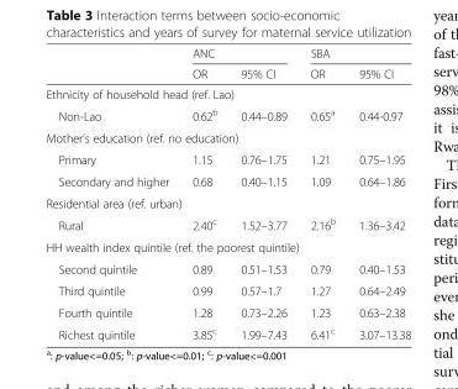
<table><thead><tr><td rowspan="2"></td><td colspan="2">ANC</td><td colspan="2">SBA</td></tr><tr><td>OR</td><td>95% CI</td><td>OR</td><td>95% CI</td></tr></thead><tbody><tr><td colspan="5">Ethnicity of household head (ref. Lao)</td></tr><tr><td>Non-Lao</td><td>0.62<sup>b</sup></td><td>0.44–0.89</td><td>0.65<sup>a</sup></td><td>0.44-0.97</td></tr><tr><td colspan="5">Mother’s education (ref. no education)</td></tr><tr><td>Primary</td><td>1.15</td><td>0.76–1.75</td><td>1.21</td><td>0.75–1.95</td></tr><tr><td>Secondary and higher</td><td>0.68</td><td>0.40–1.15</td><td>1.09</td><td>0.64–1.86</td></tr><tr><td colspan="5">Residential area (ref. urban)</td></tr><tr><td>Rural</td><td>2.40<sup>c</sup></td><td>1.52–3.77</td><td>2.16<sup>b</sup></td><td>1.36–3.42</td></tr><tr><td colspan="5">HH wealth index quintile (ref. the poorest quintile)</td></tr><tr><td>Second quintile</td><td>0.89</td><td>0.51–1.53</td><td>0.79</td><td>0.40–1.53</td></tr><tr><td>Third quintile</td><td>0.99</td><td>0.57–1.7</td><td>1.27</td><td>0.64–2.49</td></tr><tr><td>Fourth quintile</td><td>1.28</td><td>0.73–2.26</td><td>1.23</td><td>0.63–2.38</td></tr><tr><td>Richest quintile</td><td>3.85<sup>c</sup></td><td>1.99–7.43</td><td>6.41<sup>c</sup></td><td>3.07–13.38</td></tr></tbody></table>